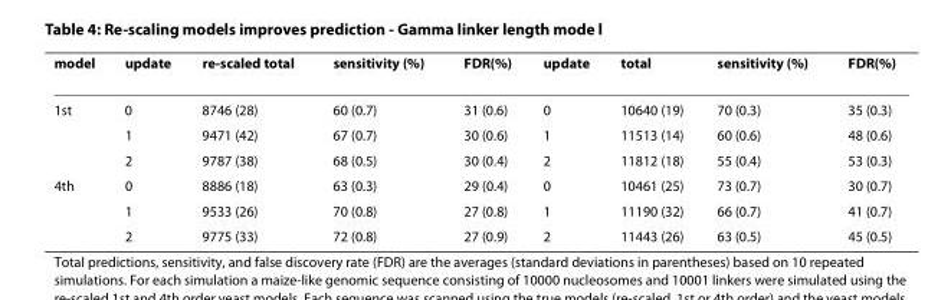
<table><thead><tr><td>model</td><td>update</td><td>re-scaled total</td><td>sensitivity (%)</td><td>FDR(%)</td><td>update</td><td>total</td><td>sensitivity (%)</td><td>FDR(%)</td></tr></thead><tbody><tr><td rowspan="3">1st</td><td>0</td><td>8746 (28)</td><td>60 (0.7)</td><td>31 (0.6)</td><td>0</td><td>10640 (19)</td><td>70 (0.3)</td><td>35 (0.3)</td></tr><tr><td>1</td><td>9471 (42)</td><td>67 (0.7)</td><td>30 (0.6)</td><td>1</td><td>11513 (14)</td><td>60 (0.6)</td><td>48 (0.6)</td></tr><tr><td>2</td><td>9787 (38)</td><td>68 (0.5)</td><td>30 (0.4)</td><td>2</td><td>11812 (18)</td><td>55 (0.4)</td><td>53 (0.3)</td></tr><tr><td rowspan="3">4th</td><td>0</td><td>8886 (18)</td><td>63 (0.3)</td><td>29 (0.4)</td><td>0</td><td>10461 (25)</td><td>73 (0.7)</td><td>30 (0.7)</td></tr><tr><td>1</td><td>9533 (26)</td><td>70 (0.8)</td><td>27 (0.8)</td><td>1</td><td>11190 (32)</td><td>66 (0.7)</td><td>41 (0.7)</td></tr><tr><td>2</td><td>9775 (33)</td><td>72 (0.8)</td><td>27 (0.9)</td><td>2</td><td>11443 (26)</td><td>63 (0.5)</td><td>45 (0.5)</td></tr></tbody></table>